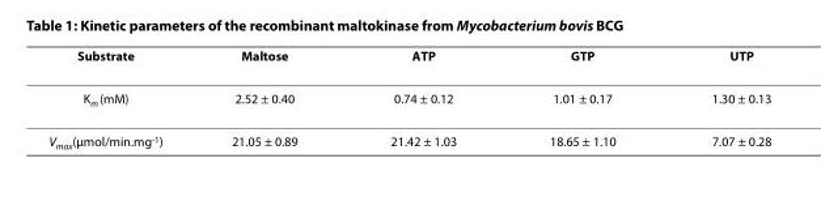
<table><thead><tr><td>Substrate</td><td>Maltose</td><td>ATP</td><td>GTP</td><td>UTP</td></tr></thead><tbody><tr><td>K<sub>m</sub> (mM)</td><td>2.52 ± 0.40</td><td>0.74 ± 0.12</td><td>1.01 ± 0.17</td><td>1.30 ± 0.13</td></tr><tr><td>V<sub>max</sub>(μmol/min.mg<sup>-1</sup>)</td><td>21.05 ± 0.89</td><td>21.42 ± 1.03</td><td>18.65 ± 1.10</td><td>7.07 ± 0.28</td></tr></tbody></table>